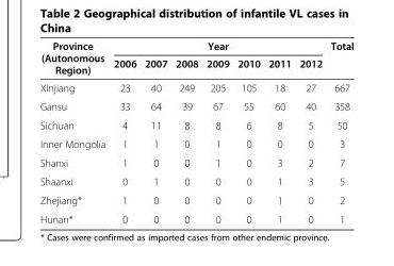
<table><thead><tr><td rowspan="2">Province (Autonomous Region)</td><td colspan="7">Year</td><td rowspan="2">Total</td></tr><tr><td>2006</td><td>2007</td><td>2008</td><td>2009</td><td>2010</td><td>2011</td><td>2012</td></tr></thead><tbody><tr><td>Xinjiang</td><td>23</td><td>40</td><td>249</td><td>205</td><td>105</td><td>18</td><td>27</td><td>667</td></tr><tr><td>Gansu</td><td>33</td><td>64</td><td>39</td><td>67</td><td>55</td><td>60</td><td>40</td><td>358</td></tr><tr><td>Sichuan</td><td>4</td><td>11</td><td>8</td><td>8</td><td>6</td><td>8</td><td>5</td><td>50</td></tr><tr><td>Inner Mongolia</td><td>1</td><td>1</td><td>0</td><td>1</td><td>0</td><td>0</td><td>0</td><td>3</td></tr><tr><td>Shanxi</td><td>1</td><td>0</td><td>0</td><td>1</td><td>0</td><td>3</td><td>2</td><td>7</td></tr><tr><td>Shaanxi</td><td>0</td><td>1</td><td>0</td><td>0</td><td>0</td><td>1</td><td>3</td><td>5</td></tr><tr><td>Zhejiang*</td><td>1</td><td>0</td><td>0</td><td>0</td><td>0</td><td>1</td><td>0</td><td>2</td></tr><tr><td>Hunan*</td><td>0</td><td>0</td><td>0</td><td>0</td><td>0</td><td>1</td><td>0</td><td>1</td></tr></tbody></table>